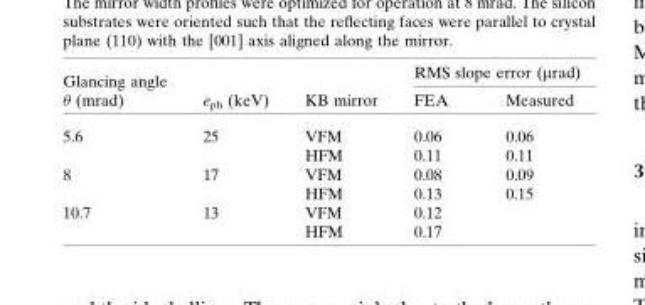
<table><thead><tr><td rowspan="2">Glancing angle θ (mrad)</td><td rowspan="2">e<sub>ph</sub> (keV)</td><td rowspan="2">KB mirror</td><td colspan="2">RMS slope error (µrad)</td></tr><tr><td>FEA</td><td>Measured</td></tr></thead><tbody><tr><td rowspan="2">5.6</td><td>25</td><td>VFM</td><td>0.06</td><td>0.06</td></tr><tr><td></td><td>HFM</td><td>0.11</td><td>0.11</td></tr><tr><td rowspan="2">8</td><td>17</td><td>VFM</td><td>0.08</td><td>0.09</td></tr><tr><td></td><td>HFM</td><td>0.13</td><td>0.15</td></tr><tr><td rowspan="2">10.7</td><td>13</td><td>VFM</td><td>0.12</td><td></td></tr><tr><td></td><td>HFM</td><td>0.17</td><td></td></tr></tbody></table>